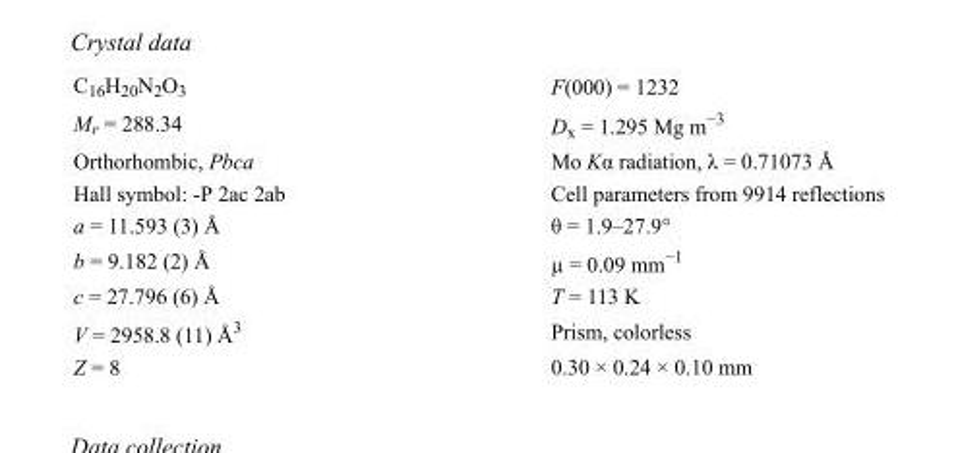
<table><tbody><tr><td>C<sub>16</sub>H<sub>20</sub>N<sub>2</sub>O<sub>3</sub></td><td>F(000) = 1232</td></tr><tr><td>M<sub>r</sub> = 288.34</td><td>D<sub>x</sub> = 1.295 Mg m<sup>−3</sup></td></tr><tr><td>Orthorhombic, Pbca</td><td>Mo Kα radiation, λ = 0.71073 Å</td></tr><tr><td>Hall symbol: -P 2ac 2ab</td><td>Cell parameters from 9914 reflections</td></tr><tr><td>a = 11.593 (3) Å</td><td>θ = 1.9–27.9°</td></tr><tr><td>b = 9.182 (2) Å</td><td>µ = 0.09 mm<sup>−1</sup></td></tr><tr><td>c = 27.796 (6) Å</td><td>T = 113 K</td></tr><tr><td>V = 2958.8 (11) Å<sup>3</sup></td><td>Prism, colorless</td></tr><tr><td>Z = 8</td><td>0.30 × 0.24 × 0.10 mm</td></tr></tbody></table>